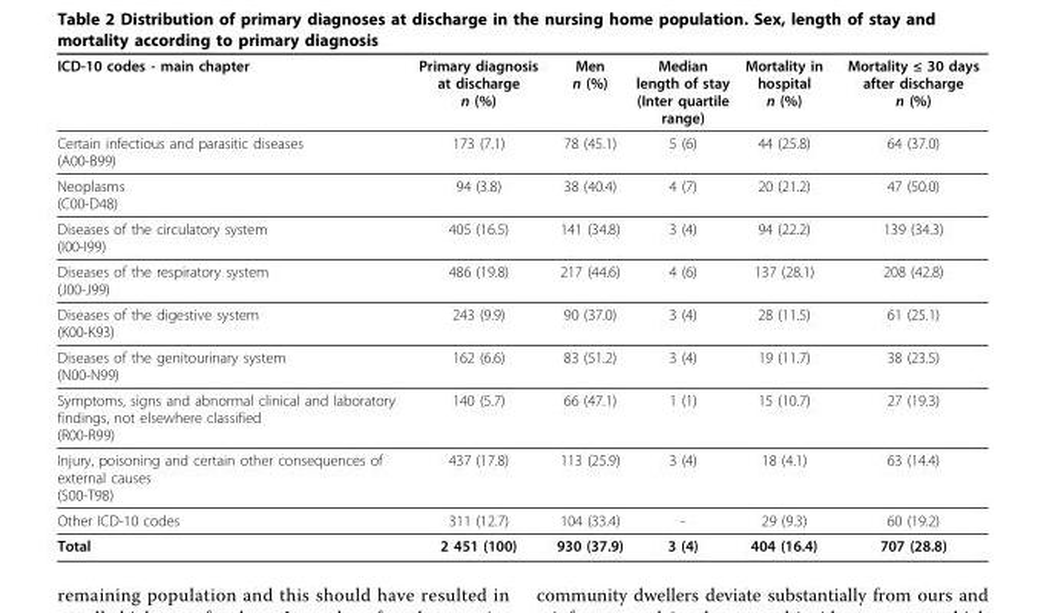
<table><thead><tr><td>ICD-10 codes - main chapter</td><td>Primary diagnosis at discharge n (%)</td><td>Men n (%)</td><td>Median length of stay (Inter quartile range)</td><td>Mortality in hospital n (%)</td><td>Mortality ≤ 30 days after discharge n (%)</td></tr></thead><tbody><tr><td>Certain infectious and parasitic diseases (A00-B99)</td><td>173 (7.1)</td><td>78 (45.1)</td><td>5 (6)</td><td>44 (25.8)</td><td>64 (37.0)</td></tr><tr><td>Neoplasms (C00-D48)</td><td>94 (3.8)</td><td>38 (40.4)</td><td>4 (7)</td><td>20 (21.2)</td><td>47 (50.0)</td></tr><tr><td>Diseases of the circulatory system (I00-I99)</td><td>405 (16.5)</td><td>141 (34.8)</td><td>3 (4)</td><td>94 (22.2)</td><td>139 (34.3)</td></tr><tr><td>Diseases of the respiratory system (J00-J99)</td><td>486 (19.8)</td><td>217 (44.6)</td><td>4 (6)</td><td>137 (28.1)</td><td>208 (42.8)</td></tr><tr><td>Diseases of the digestive system (K00-K93)</td><td>243 (9.9)</td><td>90 (37.0)</td><td>3 (4)</td><td>28 (11.5)</td><td>61 (25.1)</td></tr><tr><td>Diseases of the genitourinary system (N00-N99)</td><td>162 (6.6)</td><td>83 (51.2)</td><td>3 (4)</td><td>19 (11.7)</td><td>38 (23.5)</td></tr><tr><td>Symptoms, signs and abnormal clinical and laboratory findings, not elsewhere classified (R00-R99)</td><td>140 (5.7)</td><td>66 (47.1)</td><td>1 (1)</td><td>15 (10.7)</td><td>27 (19.3)</td></tr><tr><td>Injury, poisoning and certain other consequences of external causes (S00-T98)</td><td>437 (17.8)</td><td>113 (25.9)</td><td>3 (4)</td><td>18 (4.1)</td><td>63 (14.4)</td></tr><tr><td>Other ICD-10 codes</td><td>311 (12.7)</td><td>104 (33.4)</td><td>-</td><td>29 (9.3)</td><td>60 (19.2)</td></tr><tr><td>Total</td><td>2 451 (100)</td><td>930 (37.9)</td><td>3 (4)</td><td>404 (16.4)</td><td>707 (28.8)</td></tr></tbody></table>